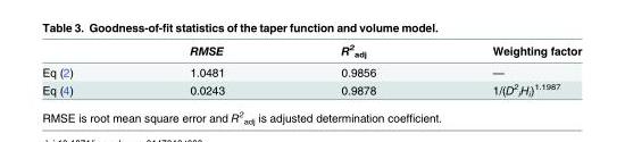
<table><thead><tr><td></td><td>RMSE</td><td>R<sup>2</sup> <sub>adj</sub></td><td>Weighting factor</td></tr></thead><tbody><tr><td>Eq (2)</td><td>1.0481</td><td>0.9856</td><td>—</td></tr><tr><td>Eq (4)</td><td>0.0243</td><td>0.9878</td><td>1/(D<sup>2</sup> <sub>i</sub>H<sub>i</sub>)<sup>1.1987</sup></td></tr></tbody></table>